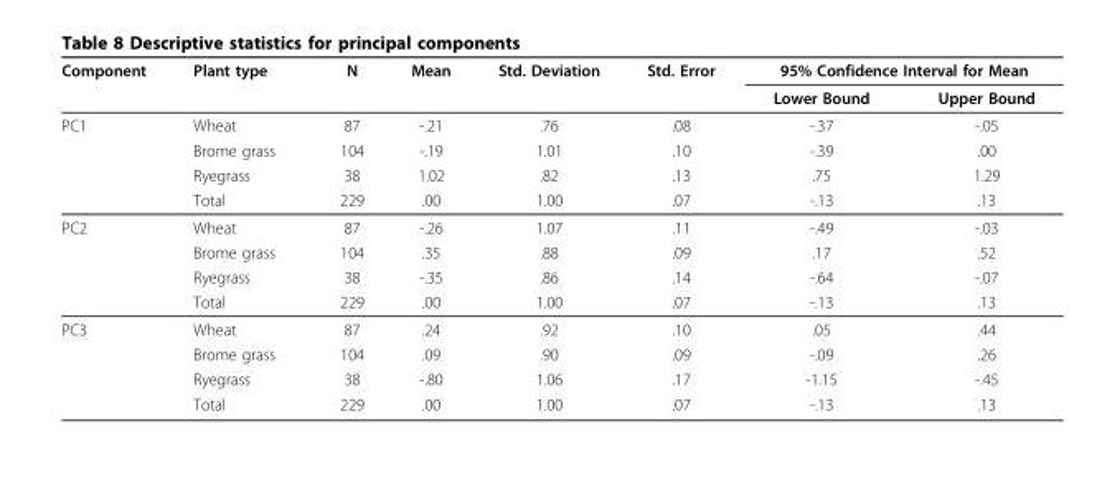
<table><thead><tr><td rowspan="2">Component</td><td rowspan="2">Plant type</td><td rowspan="2">N</td><td rowspan="2">Mean</td><td rowspan="2">Std. Deviation</td><td rowspan="2">Std. Error</td><td colspan="2">95% Confidence Interval for Mean</td></tr><tr><td>Lower Bound</td><td>Upper Bound</td></tr></thead><tbody><tr><td rowspan="4">PC1</td><td>Wheat</td><td>87</td><td>-.21</td><td>.76</td><td>.08</td><td>-.37</td><td>-.05</td></tr><tr><td>Brome grass</td><td>104</td><td>-.19</td><td>1.01</td><td>.10</td><td>-.39</td><td>.00</td></tr><tr><td>Ryegrass</td><td>38</td><td>1.02</td><td>.82</td><td>.13</td><td>.75</td><td>1.29</td></tr><tr><td>Total</td><td>229</td><td>.00</td><td>1.00</td><td>.07</td><td>-.13</td><td>.13</td></tr><tr><td rowspan="4">PC2</td><td>Wheat</td><td>87</td><td>-.26</td><td>1.07</td><td>.11</td><td>-.49</td><td>-.03</td></tr><tr><td>Brome grass</td><td>104</td><td>.35</td><td>.88</td><td>.09</td><td>.17</td><td>.52</td></tr><tr><td>Ryegrass</td><td>38</td><td>-.35</td><td>.86</td><td>.14</td><td>-.64</td><td>-.07</td></tr><tr><td>Total</td><td>229</td><td>.00</td><td>1.00</td><td>.07</td><td>-.13</td><td>.13</td></tr><tr><td rowspan="4">PC3</td><td>Wheat</td><td>87</td><td>.24</td><td>.92</td><td>.10</td><td>.05</td><td>.44</td></tr><tr><td>Brome grass</td><td>104</td><td>.09</td><td>.90</td><td>.09</td><td>-.09</td><td>.26</td></tr><tr><td>Ryegrass</td><td>38</td><td>-.80</td><td>1.06</td><td>.17</td><td>-1.15</td><td>-.45</td></tr><tr><td>Total</td><td>229</td><td>.00</td><td>1.00</td><td>.07</td><td>-.13</td><td>.13</td></tr></tbody></table>